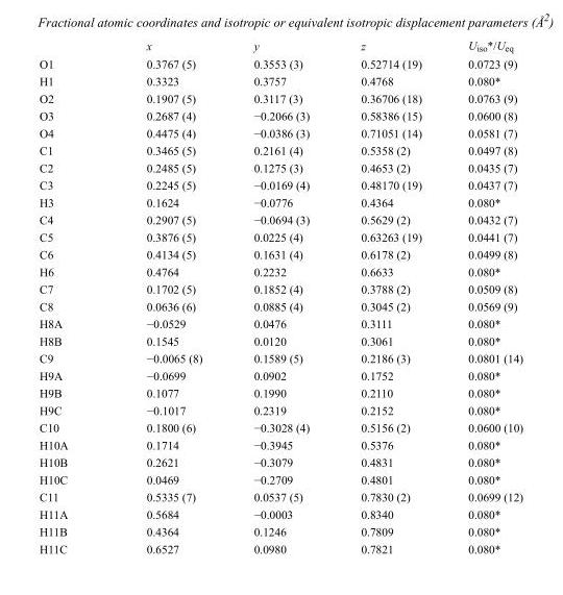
<table><thead><tr><td></td><td>x</td><td>y</td><td>z</td><td>U<sub>iso</sub>*/U<sub>eq</sub></td></tr></thead><tbody><tr><td>O1</td><td>0.3767 (5)</td><td>0.3553 (3)</td><td>0.52714 (19)</td><td>0.0723 (9)</td></tr><tr><td>H1</td><td>0.3323</td><td>0.3757</td><td>0.4768</td><td>0.080*</td></tr><tr><td>O2</td><td>0.1907 (5)</td><td>0.3117 (3)</td><td>0.36706 (18)</td><td>0.0763 (9)</td></tr><tr><td>O3</td><td>0.2687 (4)</td><td>−0.2066 (3)</td><td>0.58386 (15)</td><td>0.0600 (8)</td></tr><tr><td>O4</td><td>0.4475 (4)</td><td>−0.0386 (3)</td><td>0.71051 (14)</td><td>0.0581 (7)</td></tr><tr><td>C1</td><td>0.3465 (5)</td><td>0.2161 (4)</td><td>0.5358 (2)</td><td>0.0497 (8)</td></tr><tr><td>C2</td><td>0.2485 (5)</td><td>0.1275 (3)</td><td>0.4653 (2)</td><td>0.0435 (7)</td></tr><tr><td>C3</td><td>0.2245 (5)</td><td>−0.0169 (4)</td><td>0.48170 (19)</td><td>0.0437 (7)</td></tr><tr><td>H3</td><td>0.1624</td><td>−0.0776</td><td>0.4364</td><td>0.080*</td></tr><tr><td>C4</td><td>0.2907 (5)</td><td>−0.0694 (3)</td><td>0.5629 (2)</td><td>0.0432 (7)</td></tr><tr><td>C5</td><td>0.3876 (5)</td><td>0.0225 (4)</td><td>0.63263 (19)</td><td>0.0441 (7)</td></tr><tr><td>C6</td><td>0.4134 (5)</td><td>0.1631 (4)</td><td>0.6178 (2)</td><td>0.0499 (8)</td></tr><tr><td>H6</td><td>0.4764</td><td>0.2232</td><td>0.6633</td><td>0.080*</td></tr><tr><td>C7</td><td>0.1702 (5)</td><td>0.1852 (4)</td><td>0.3788 (2)</td><td>0.0509 (8)</td></tr><tr><td>C8</td><td>0.0636 (6)</td><td>0.0885 (4)</td><td>0.3045 (2)</td><td>0.0569 (9)</td></tr><tr><td>H8A</td><td>−0.0529</td><td>0.0476</td><td>0.3111</td><td>0.080*</td></tr><tr><td>H8B</td><td>0.1545</td><td>0.0120</td><td>0.3061</td><td>0.080*</td></tr><tr><td>C9</td><td>−0.0065 (8)</td><td>0.1589 (5)</td><td>0.2186 (3)</td><td>0.0801 (14)</td></tr><tr><td>H9A</td><td>−0.0699</td><td>0.0902</td><td>0.1752</td><td>0.080*</td></tr><tr><td>H9B</td><td>0.1077</td><td>0.1990</td><td>0.2110</td><td>0.080*</td></tr><tr><td>H9C</td><td>−0.1017</td><td>0.2319</td><td>0.2152</td><td>0.080*</td></tr><tr><td>C10</td><td>0.1800 (6)</td><td>−0.3028 (4)</td><td>0.5156 (2)</td><td>0.0600 (10)</td></tr><tr><td>H10A</td><td>0.1714</td><td>−0.3945</td><td>0.5376</td><td>0.080*</td></tr><tr><td>H10B</td><td>0.2621</td><td>−0.3079</td><td>0.4831</td><td>0.080*</td></tr><tr><td>H10C</td><td>0.0469</td><td>−0.2709</td><td>0.4801</td><td>0.080*</td></tr><tr><td>C11</td><td>0.5335 (7)</td><td>0.0537 (5)</td><td>0.7830 (2)</td><td>0.0699 (12)</td></tr><tr><td>H11A</td><td>0.5684</td><td>−0.0003</td><td>0.8340</td><td>0.080*</td></tr><tr><td>H11B</td><td>0.4364</td><td>0.1246</td><td>0.7809</td><td>0.080*</td></tr><tr><td>H11C</td><td>0.6527</td><td>0.0980</td><td>0.7821</td><td>0.080*</td></tr></tbody></table>